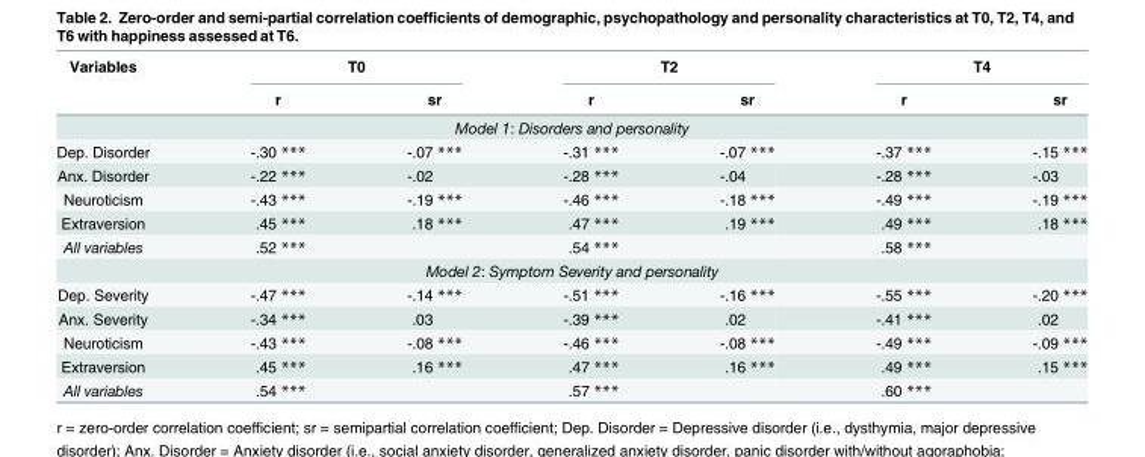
<table><thead><tr><td rowspan="2">Variables</td><td colspan="2">T0</td><td colspan="2">T2</td><td colspan="2">T4</td></tr><tr><td>r</td><td>sr</td><td>r</td><td>sr</td><td>r</td><td>sr</td></tr></thead><tbody><tr><td colspan="7">Model 1: Disorders and personality</td></tr><tr><td>Dep. Disorder</td><td>-.30 ***</td><td>-.07 ***</td><td>-.31 ***</td><td>-.07 ***</td><td>-.37 ***</td><td>-.15 ***</td></tr><tr><td>Anx. Disorder</td><td>-.22 ***</td><td>-.02</td><td>-.28 ***</td><td>-.04</td><td>-.28 ***</td><td>-.03</td></tr><tr><td>Neuroticism</td><td>-.43 ***</td><td>-.19 ***</td><td>-.46 ***</td><td>-.18 ***</td><td>-.49 ***</td><td>-.19 ***</td></tr><tr><td>Extraversion</td><td>.45 ***</td><td>.18 ***</td><td>.47 ***</td><td>.19 ***</td><td>.49 ***</td><td>.18 ***</td></tr><tr><td>All variables</td><td>.52 ***</td><td></td><td>.54 ***</td><td></td><td>.58 ***</td><td></td></tr><tr><td colspan="7">Model 2: Symptom Severity and personality</td></tr><tr><td>Dep. Severity</td><td>-.47 ***</td><td>-.14 ***</td><td>-.51 ***</td><td>-.16 ***</td><td>-.55 ***</td><td>-.20 ***</td></tr><tr><td>Anx. Severity</td><td>-.34 ***</td><td>.03</td><td>-.39 ***</td><td>.02</td><td>-.41 ***</td><td>.02</td></tr><tr><td>Neuroticism</td><td>-.43 ***</td><td>-.08 ***</td><td>-.46 ***</td><td>-.08 ***</td><td>-.49 ***</td><td>-.09 ***</td></tr><tr><td>Extraversion</td><td>.45 ***</td><td>.16 ***</td><td>.47 ***</td><td>.16 ***</td><td>.49 ***</td><td>.15 ***</td></tr><tr><td>All variables</td><td>.54 ***</td><td></td><td>.57 ***</td><td></td><td>.60 ***</td><td></td></tr></tbody></table>